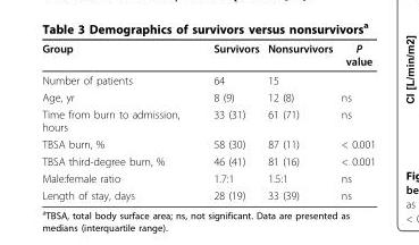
<table><thead><tr><td>Group</td><td>Survivors</td><td>Nonsurvivors</td><td>P value</td></tr></thead><tbody><tr><td>Number of patients</td><td>64</td><td>15</td><td></td></tr><tr><td>Age, yr</td><td>8 (9)</td><td>12 (8)</td><td>ns</td></tr><tr><td>Time from burn to admission, hours</td><td>33 (31)</td><td>61 (71)</td><td>ns</td></tr><tr><td>TBSA burn, %</td><td>58 (30)</td><td>87 (11)</td><td>&lt; 0.001</td></tr><tr><td>TBSA third-degree burn, %</td><td>46 (41)</td><td>81 (16)</td><td>&lt; 0.001</td></tr><tr><td>Male:female ratio</td><td>1.7:1</td><td>1.5:1</td><td>ns</td></tr><tr><td>Length of stay, days</td><td>28 (19)</td><td>33 (39)</td><td>ns</td></tr></tbody></table>